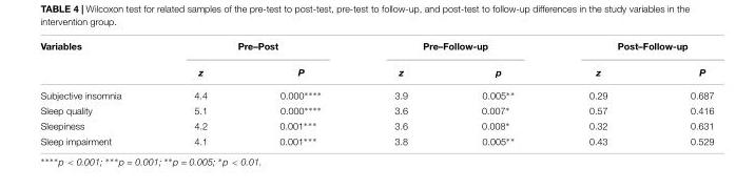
<table><thead><tr><td rowspan="2">Variables</td><td colspan="2">Pre–Post</td><td colspan="2">Pre–Follow-up</td><td colspan="2">Post–Follow-up</td></tr><tr><td>z</td><td>P</td><td>z</td><td>p</td><td>z</td><td>P</td></tr></thead><tbody><tr><td>Subjective insomnia</td><td>4.4</td><td>0.000∗∗∗∗</td><td>3.9</td><td>0.005∗∗</td><td>0.29</td><td>0.687</td></tr><tr><td>Sleep quality</td><td>5.1</td><td>0.000∗∗∗∗</td><td>3.6</td><td>0.007∗</td><td>0.57</td><td>0.416</td></tr><tr><td>Sleepiness</td><td>4.2</td><td>0.001∗∗∗</td><td>3.6</td><td>0.008∗</td><td>0.32</td><td>0.631</td></tr><tr><td>Sleep impairment</td><td>4.1</td><td>0.001∗∗∗</td><td>3.8</td><td>0.005∗∗</td><td>0.43</td><td>0.529</td></tr></tbody></table>